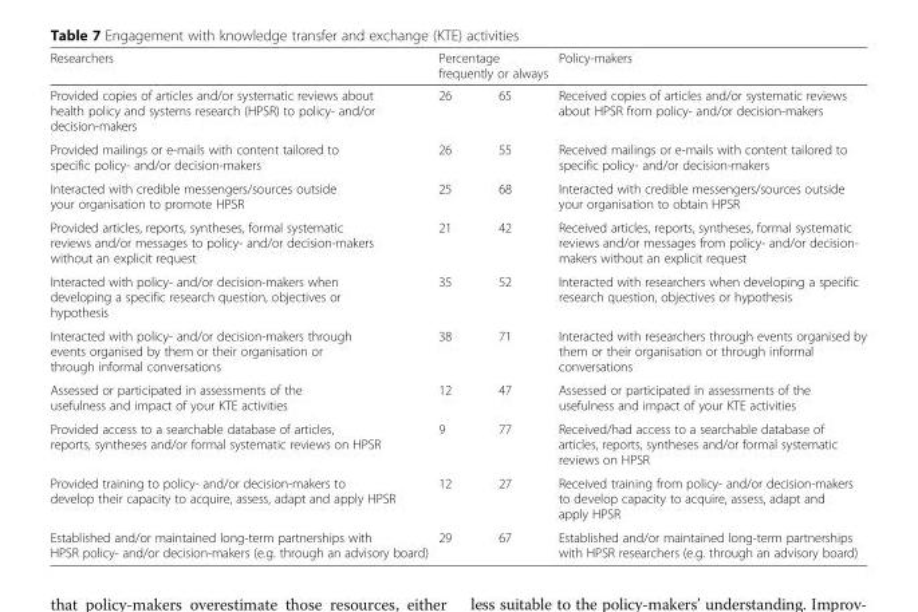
<table><thead><tr><td rowspan="2">Researchers Provided copies of articles and/or systematic reviews about health policy and systems research (HPSR) to policy- and/or decision-makers</td><td colspan="2">Percentage frequently or always</td><td rowspan="2">Policy-makers Received copies of articles and/or systematic reviews about HPSR from policy- and/or decision-makers</td></tr><tr><td>26</td><td>65</td></tr></thead><tbody><tr><td>Provided mailings or e-mails with content tailored to specific policy- and/or decision-makers</td><td>26</td><td>55</td><td>Received mailings or e-mails with content tailored to specific policy- and/or decision-makers</td></tr><tr><td>Interacted with credible messengers/sources outside your organisation to promote HPSR</td><td>25</td><td>68</td><td>Interacted with credible messengers/sources outside your organisation to obtain HPSR</td></tr><tr><td>Provided articles, reports, syntheses, formal systematic reviews and/or messages to policy- and/or decision-makers without an explicit request</td><td>21</td><td>42</td><td>Received articles, reports, syntheses, formal systematic reviews and/or messages from policy- and/or decision- makers without an explicit request</td></tr><tr><td>Interacted with policy- and/or decision-makers when developing a specific research question, objectives or hypothesis</td><td>35</td><td>52</td><td>Interacted with researchers when developing a specific research question, objectives or hypothesis</td></tr><tr><td>Interacted with policy- and/or decision-makers through events organised by them or their organisation or through informal conversations</td><td>38</td><td>71</td><td>Interacted with researchers through events organised by them or their organisation or through informal conversations</td></tr><tr><td>Assessed or participated in assessments of the usefulness and impact of your KTE activities</td><td>12</td><td>47</td><td>Assessed or participated in assessments of the usefulness and impact of your KTE activities</td></tr><tr><td>Provided access to a searchable database of articles, reports, syntheses and/or formal systematic reviews on HPSR</td><td>9</td><td>77</td><td>Received/had access to a searchable database of articles, reports, syntheses and/or formal systematic reviews on HPSR</td></tr><tr><td>Provided training to policy- and/or decision-makers to develop their capacity to acquire, assess, adapt and apply HPSR</td><td>12</td><td>27</td><td>Received training from policy- and/or decision-makers to develop capacity to acquire, assess, adapt and apply HPSR</td></tr><tr><td>Established and/or maintained long-term partnerships with HPSR policy- and/or decision-makers (e.g. through an advisory board)</td><td>29</td><td>67</td><td>Established and/or maintained long-term partnerships with HPSR researchers (e.g. through an advisory board)</td></tr></tbody></table>